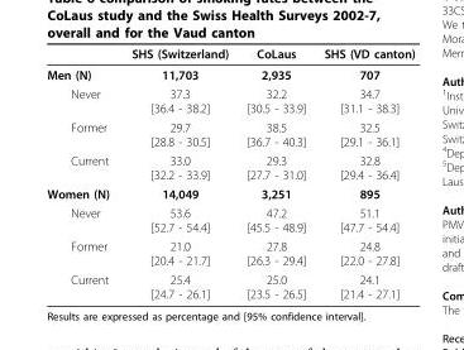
<table><thead><tr><td></td><td>SHS (Switzerland)</td><td>CoLaus</td><td>SHS (VD canton)</td></tr></thead><tbody><tr><td>Men (N)</td><td>11,703</td><td>2,935</td><td>707</td></tr><tr><td>Never</td><td>37.3 [36.4 - 38.2]</td><td>32.2 [30.5 - 33.9]</td><td>34.7 [31.1 - 38.3]</td></tr><tr><td>Former</td><td>29.7 [28.8 - 30.5]</td><td>38.5 [36.7 - 40.3]</td><td>32.5 [29.1 - 36.1]</td></tr><tr><td>Current</td><td>33.0 [32.2 - 33.9]</td><td>29.3 [27.7 - 31.0]</td><td>32.8 [29.4 - 36.4]</td></tr><tr><td>Women (N)</td><td>14,049</td><td>3,251</td><td>895</td></tr><tr><td>Never</td><td>53.6 [52.7 - 54.4]</td><td>47.2 [45.5 - 48.9]</td><td>51.1 [47.7 - 54.4]</td></tr><tr><td>Former</td><td>21.0 [20.4 - 21.7]</td><td>27.8 [26.3 - 29.4]</td><td>24.8 [22.0 - 27.8]</td></tr><tr><td>Current</td><td>25.4 [24.7 - 26.1]</td><td>25.0 [23.5 - 26.5]</td><td>24.1 [21.4 - 27.1]</td></tr></tbody></table>